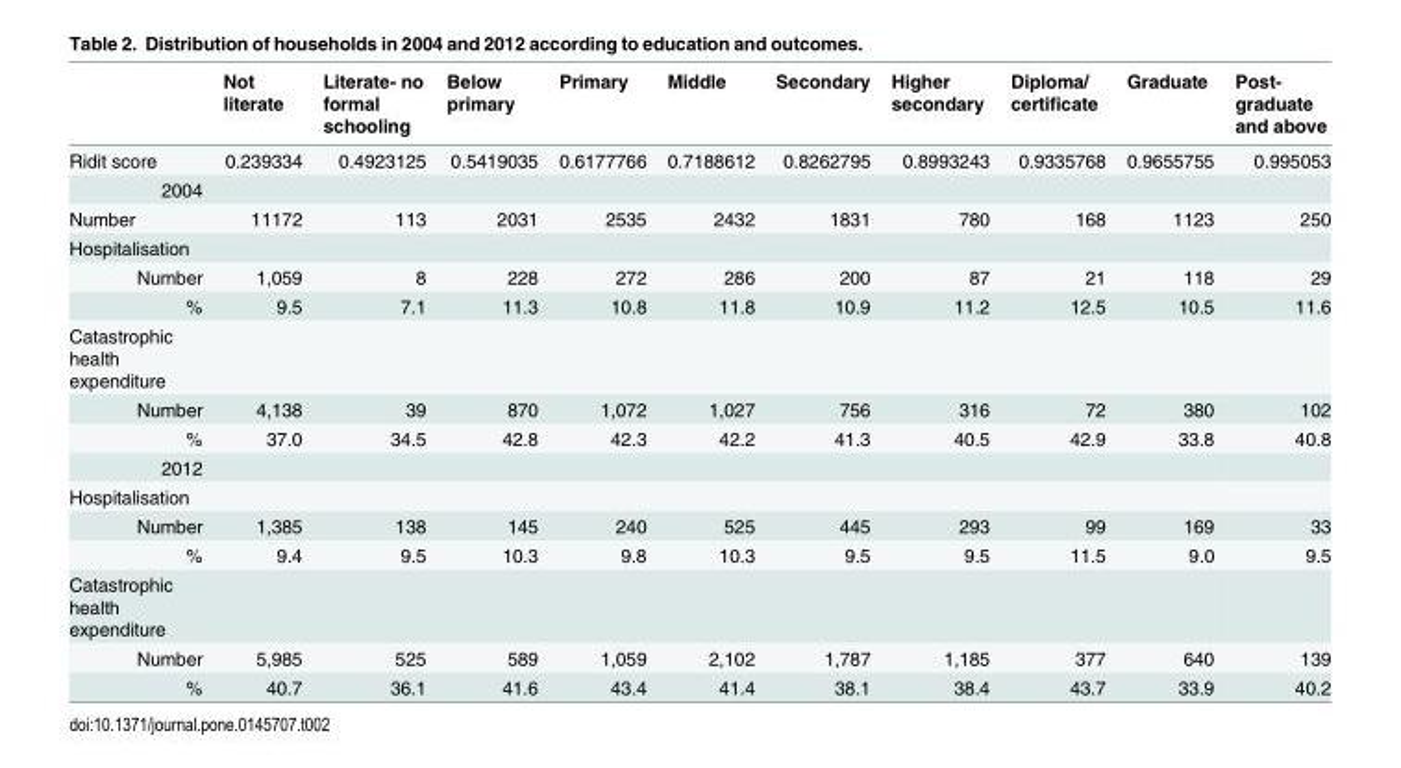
<table><thead><tr><td></td><td>Not literate</td><td>Literate- no formal schooling</td><td>Below primary</td><td>Primary</td><td>Middle</td><td>Secondary</td><td>Higher secondary</td><td>Diploma/ certificate</td><td>Graduate</td><td>Post- graduate and above</td></tr></thead><tbody><tr><td>Ridit score</td><td>0.239334</td><td>0.4923125</td><td>0.5419035</td><td>0.6177766</td><td>0.7188612</td><td>0.8262795</td><td>0.8993243</td><td>0.9335768</td><td>0.9655755</td><td>0.995053</td></tr><tr><td colspan="11">2004</td></tr><tr><td>Number</td><td>11172</td><td>113</td><td>2031</td><td>2535</td><td>2432</td><td>1831</td><td>780</td><td>168</td><td>1123</td><td>250</td></tr><tr><td colspan="11">Hospitalisation</td></tr><tr><td>Number</td><td>1,059</td><td>8</td><td>228</td><td>272</td><td>286</td><td>200</td><td>87</td><td>21</td><td>118</td><td>29</td></tr><tr><td>%</td><td>9.5</td><td>7.1</td><td>11.3</td><td>10.8</td><td>11.8</td><td>10.9</td><td>11.2</td><td>12.5</td><td>10.5</td><td>11.6</td></tr><tr><td colspan="11">Catastrophic health expenditure</td></tr><tr><td>Number</td><td>4,138</td><td>39</td><td>870</td><td>1,072</td><td>1,027</td><td>756</td><td>316</td><td>72</td><td>380</td><td>102</td></tr><tr><td>%</td><td>37.0</td><td>34.5</td><td>42.8</td><td>42.3</td><td>42.2</td><td>41.3</td><td>40.5</td><td>42.9</td><td>33.8</td><td>40.8</td></tr><tr><td colspan="11">2012</td></tr><tr><td colspan="11">Hospitalisation</td></tr><tr><td>Number</td><td>1,385</td><td>138</td><td>145</td><td>240</td><td>525</td><td>445</td><td>293</td><td>99</td><td>169</td><td>33</td></tr><tr><td>%</td><td>9.4</td><td>9.5</td><td>10.3</td><td>9.8</td><td>10.3</td><td>9.5</td><td>9.5</td><td>11.5</td><td>9.0</td><td>9.5</td></tr><tr><td colspan="11">Catastrophic health expenditure</td></tr><tr><td>Number</td><td>5,985</td><td>525</td><td>589</td><td>1,059</td><td>2,102</td><td>1,787</td><td>1,185</td><td>377</td><td>640</td><td>139</td></tr><tr><td>%</td><td>40.7</td><td>36.1</td><td>41.6</td><td>43.4</td><td>41.4</td><td>38.1</td><td>38.4</td><td>43.7</td><td>33.9</td><td>40.2</td></tr></tbody></table>